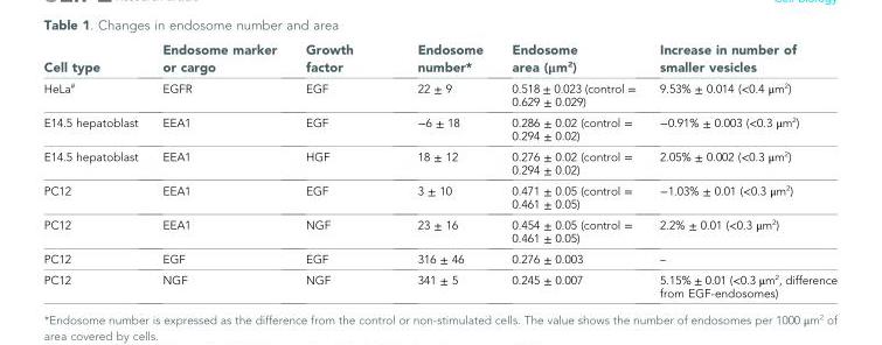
<table><thead><tr><td>Cell type</td><td>Endosome marker or cargo</td><td>Growth factor</td><td>Endosome number*</td><td>Endosome area (μm<sup>2</sup>)</td><td>Increase in number of smaller vesicles</td></tr></thead><tbody><tr><td>HeLa<sup>#</sup></td><td>EGFR</td><td>EGF</td><td>22 ± 9</td><td>0.518 ± 0.023 (control = 0.629 ± 0.029)</td><td>9.53% ± 0.014 (&lt;0.4 μm<sup>2</sup>)</td></tr><tr><td>E14.5 hepatoblast</td><td>EEA1</td><td>EGF</td><td>−6 ± 18</td><td>0.286 ± 0.02 (control = 0.294 ± 0.02)</td><td>−0.91% ± 0.003 (&lt;0.3 μm<sup>2</sup>)</td></tr><tr><td>E14.5 hepatoblast</td><td>EEA1</td><td>HGF</td><td>18 ± 12</td><td>0.276 ± 0.02 (control = 0.294 ± 0.02)</td><td>2.05% ± 0.002 (&lt;0.3 μm<sup>2</sup>)</td></tr><tr><td>PC12</td><td>EEA1</td><td>EGF</td><td>3 ± 10</td><td>0.471 ± 0.05 (control = 0.461 ± 0.05)</td><td>−1.03% ± 0.01 (&lt;0.3 μm<sup>2</sup>)</td></tr><tr><td>PC12</td><td>EEA1</td><td>NGF</td><td>23 ± 16</td><td>0.454 ± 0.05 (control = 0.461 ± 0.05)</td><td>2.2% ± 0.01 (&lt;0.3 μm<sup>2</sup>)</td></tr><tr><td>PC12</td><td>EGF</td><td>EGF</td><td>316 ± 46</td><td>0.276 ± 0.003</td><td>–</td></tr><tr><td>PC12</td><td>NGF</td><td>NGF</td><td>341 ± 5</td><td>0.245 ± 0.007</td><td>5.15% ± 0.01 (&lt;0.3 μm<sup>2</sup>, difference from EGF-endosomes)</td></tr></tbody></table>